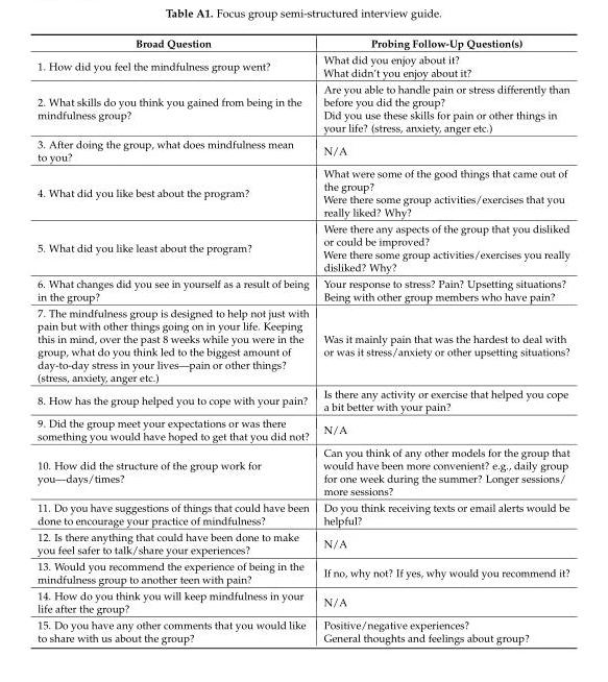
<table><thead><tr><td>Broad Question</td><td>Probing Follow-Up Question(s)</td></tr></thead><tbody><tr><td>1. How did you feel the mindfulness group went?</td><td>What did you enjoy about it? What didn’t you enjoy about it?</td></tr><tr><td>2. What skills do you think you gained from being in the mindfulness group?</td><td>Are you able to handle pain or stress differently than before you did the group? Did you use these skills for pain or other things in your life? (stress, anxiety, anger etc.)</td></tr><tr><td>3. After doing the group, what does mindfulness mean to you?</td><td>N/A</td></tr><tr><td>4. What did you like best about the program?</td><td>What were some of the good things that came out of the group? Were there some group activities/exercises that you really liked? Why?</td></tr><tr><td>5. What did you like least about the program?</td><td>Were there any aspects of the group that you disliked or could be improved? Were there some group activities/exercises you really disliked? Why?</td></tr><tr><td>6. What changes did you see in yourself as a result of being in the group?</td><td>Your response to stress? Pain? Upsetting situations? Being with other group members who have pain?</td></tr><tr><td>7. The mindfulness group is designed to help not just with pain but with other things going on in your life. Keeping this in mind, over the past 8 weeks while you were in the group, what do you think led to the biggest amount of day-to-day stress in your lives—pain or other things? (stress, anxiety, anger etc.)</td><td>Was it mainly pain that was the hardest to deal with or was it stress/anxiety or other upsetting situations?</td></tr><tr><td>8. How has the group helped you to cope with your pain?</td><td>Is there any activity or exercise that helped you cope a bit better with your pain?</td></tr><tr><td>9. Did the group meet your expectations or was there something you would have hoped to get that you did not?</td><td>N/A</td></tr><tr><td>10. How did the structure of the group work for you—days/times?</td><td>Can you think of any other models for the group that would have been more convenient? e.g., daily group for one week during the summer? Longer sessions/ more sessions?</td></tr><tr><td>11. Do you have suggestions of things that could have been done to encourage your practice of mindfulness?</td><td>Do you think receiving texts or email alerts would be helpful?</td></tr><tr><td>12. Is there anything that could have been done to make you feel safer to talk/share your experiences?</td><td>N/A</td></tr><tr><td>13. Would you recommend the experience of being in the mindfulness group to another teen with pain?</td><td>If no, why not? If yes, why would you recommend it?</td></tr><tr><td>14. How do you think you will keep mindfulness in your life after the group?</td><td>N/A</td></tr><tr><td>15. Do you have any other comments that you would like to share with us about the group?</td><td>Positive/negative experiences? General thoughts and feelings about group?</td></tr></tbody></table>